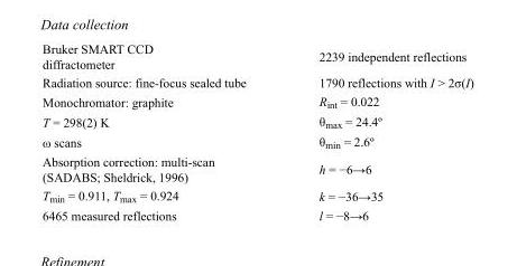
<table><tbody><tr><td>Bruker SMART CCD diffractometer</td><td>2239 independent reflections</td></tr><tr><td>Radiation source: fine-focus sealed tube</td><td>1790 reflections with I &gt; 2σ(I)</td></tr><tr><td>Monochromator: graphite</td><td>R<sub>int</sub> = 0.022</td></tr><tr><td>T = 298(2) K</td><td>θ<sub>max</sub> = 24.4º</td></tr><tr><td>ω scans</td><td>θ<sub>min</sub> = 2.6º</td></tr><tr><td>Absorption correction: multi-scan (SADABS; Sheldrick, 1996)</td><td>h = −6→6</td></tr><tr><td>T<sub>min</sub> = 0.911, T<sub>max</sub> = 0.924</td><td>k = −36→35</td></tr><tr><td>6465 measured reflections</td><td>l = −8→6</td></tr></tbody></table>